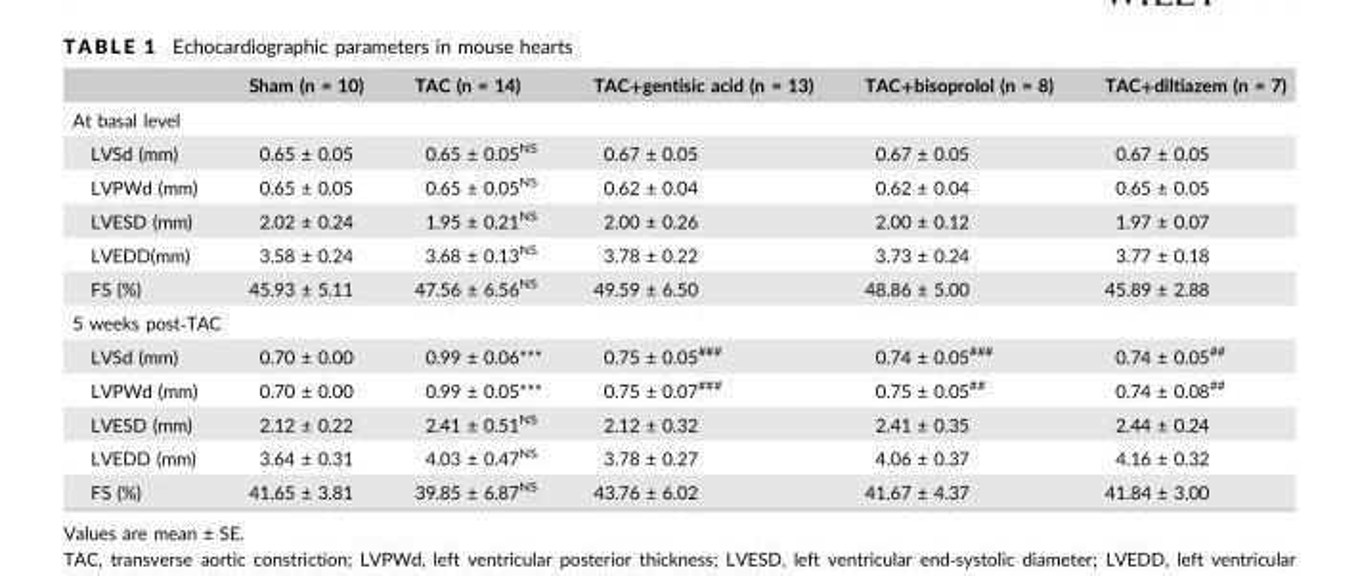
<table><thead><tr><td></td><td>Sham (n = 10)</td><td>TAC (n = 14)</td><td>TAC+gentisic acid (n = 13)</td><td>TAC+bisoprolol (n = 8)</td><td>TAC+diltiazem (n = 7)</td></tr></thead><tbody><tr><td colspan="6">At basal level</td></tr><tr><td>LVSd (mm)</td><td>0.65 ± 0.05</td><td>0.65 ± 0.05<sup>NS</sup></td><td>0.67 ± 0.05</td><td>0.67 ± 0.05</td><td>0.67 ± 0.05</td></tr><tr><td>LVPWd (mm)</td><td>0.65 ± 0.05</td><td>0.65 ± 0.05<sup>NS</sup></td><td>0.62 ± 0.04</td><td>0.62 ± 0.04</td><td>0.65 ± 0.05</td></tr><tr><td>LVESD (mm)</td><td>2.02 ± 0.24</td><td>1.95 ± 0.21<sup>NS</sup></td><td>2.00 ± 0.26</td><td>2.00 ± 0.12</td><td>1.97 ± 0.07</td></tr><tr><td>LVEDD(mm)</td><td>3.58 ± 0.24</td><td>3.68 ± 0.13<sup>NS</sup></td><td>3.78 ± 0.22</td><td>3.73 ± 0.24</td><td>3.77 ± 0.18</td></tr><tr><td>FS (%)</td><td>45.93 ± 5.11</td><td>47.56 ± 6.56<sup>NS</sup></td><td>49.59 ± 6.50</td><td>48.86 ± 5.00</td><td>45.89 ± 2.88</td></tr><tr><td colspan="6">5 weeks post‐TAC</td></tr><tr><td>LVSd (mm)</td><td>0.70 ± 0.00</td><td>0.99 ± 0.06***</td><td>0.75 ± 0.05###</td><td>0.74 ± 0.05###</td><td>0.74 ± 0.05##</td></tr><tr><td>LVPWd (mm)</td><td>0.70 ± 0.00</td><td>0.99 ± 0.05***</td><td>0.75 ± 0.07###</td><td>0.75 ± 0.05##</td><td>0.74 ± 0.08##</td></tr><tr><td>LVESD (mm)</td><td>2.12 ± 0.22</td><td>2.41 ± 0.51<sup>NS</sup></td><td>2.12 ± 0.32</td><td>2.41 ± 0.35</td><td>2.44 ± 0.24</td></tr><tr><td>LVEDD (mm)</td><td>3.64 ± 0.31</td><td>4.03 ± 0.47<sup>NS</sup></td><td>3.78 ± 0.27</td><td>4.06 ± 0.37</td><td>4.16 ± 0.32</td></tr><tr><td>FS (%)</td><td>41.65 ± 3.81</td><td>39.85 ± 6.87<sup>NS</sup></td><td>43.76 ± 6.02</td><td>41.67 ± 4.37</td><td>41.84 ± 3.00</td></tr></tbody></table>